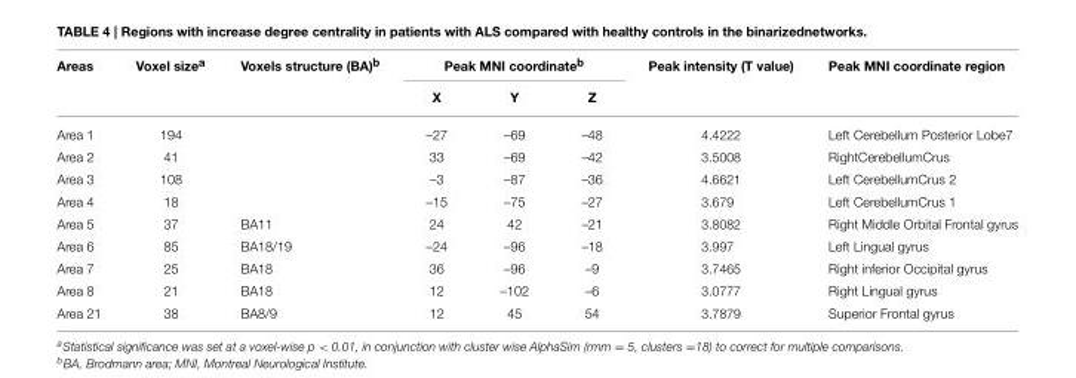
<table><thead><tr><td rowspan="2">Areas</td><td rowspan="2">Voxel size<sup>a</sup></td><td rowspan="2">Voxels structure (BA)<sup>b</sup></td><td colspan="3">Peak MNI coordinate<sup>b</sup></td><td rowspan="2">Peak intensity (T value)</td><td rowspan="2">Peak MNI coordinate region</td></tr><tr><td>X</td><td>Y</td><td>Z</td></tr></thead><tbody><tr><td>Area 1</td><td>194</td><td></td><td>–27</td><td>–69</td><td>–48</td><td>4.4222</td><td>Left Cerebellum Posterior Lobe7</td></tr><tr><td>Area 2</td><td>41</td><td></td><td>33</td><td>–69</td><td>–42</td><td>3.5008</td><td>RightCerebellumCrus</td></tr><tr><td>Area 3</td><td>108</td><td></td><td>–3</td><td>–87</td><td>–36</td><td>4.6621</td><td>Left CerebellumCrus 2</td></tr><tr><td>Area 4</td><td>18</td><td></td><td>–15</td><td>–75</td><td>–27</td><td>3.679</td><td>Left CerebellumCrus 1</td></tr><tr><td>Area 5</td><td>37</td><td>BA11</td><td>24</td><td>42</td><td>–21</td><td>3.8082</td><td>Right Middle Orbital Frontal gyrus</td></tr><tr><td>Area 6</td><td>85</td><td>BA18/19</td><td>–24</td><td>–96</td><td>–18</td><td>3.997</td><td>Left Lingual gyrus</td></tr><tr><td>Area 7</td><td>25</td><td>BA18</td><td>36</td><td>–96</td><td>–9</td><td>3.7465</td><td>Right inferior Occipital gyrus</td></tr><tr><td>Area 8</td><td>21</td><td>BA18</td><td>12</td><td>–102</td><td>–6</td><td>3.0777</td><td>Right Lingual gyrus</td></tr><tr><td>Area 21</td><td>38</td><td>BA8/9</td><td>12</td><td>45</td><td>54</td><td>3.7879</td><td>Superior Frontal gyrus</td></tr></tbody></table>